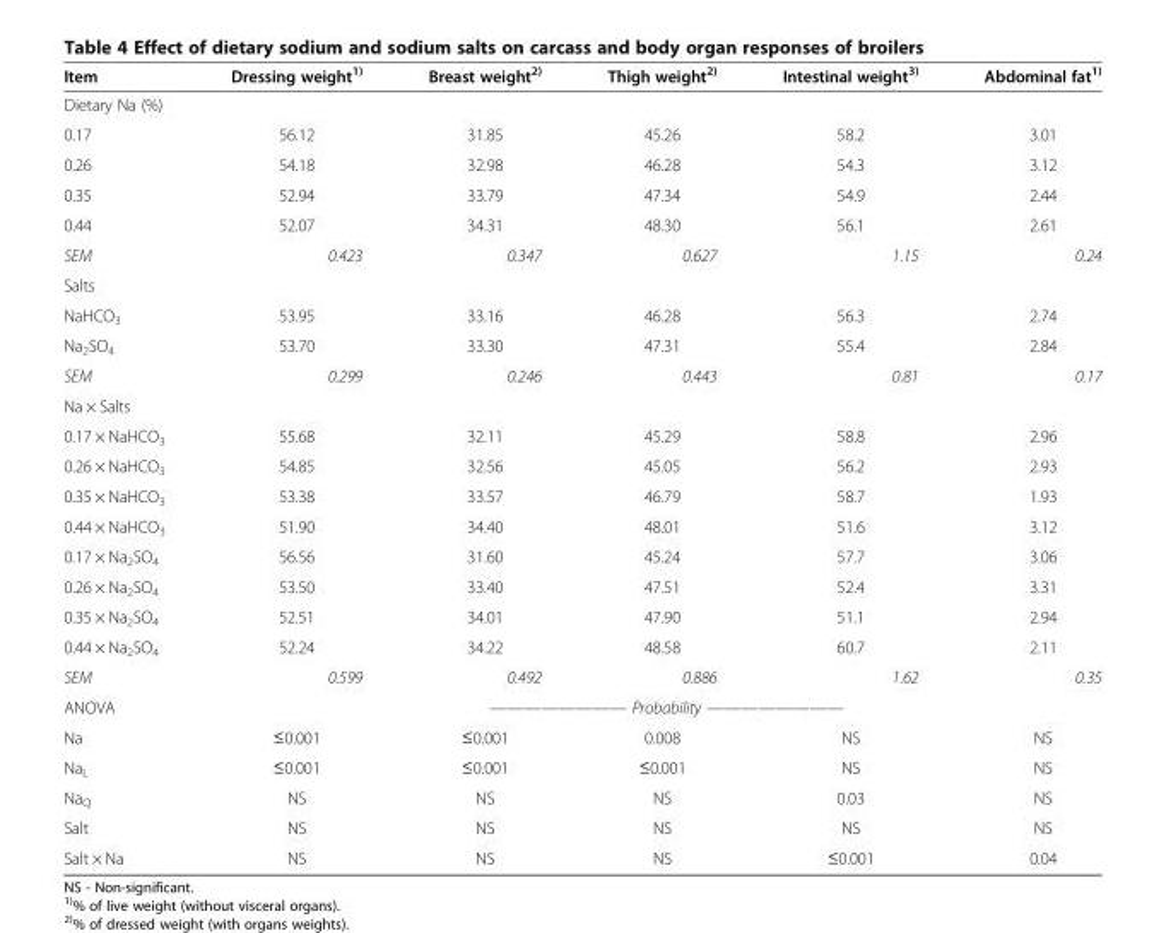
<table><thead><tr><td>Item</td><td>Dressing weight<sup>1)</sup></td><td>Breast weight<sup>2)</sup></td><td>Thigh weight<sup>2)</sup></td><td>Intestinal weight<sup>3)</sup></td><td>Abdominal fat<sup>1)</sup></td></tr></thead><tbody><tr><td colspan="6">Dietary Na (%)</td></tr><tr><td>0.17</td><td>56.12</td><td>31.85</td><td>45.26</td><td>58.2</td><td>3.01</td></tr><tr><td>0.26</td><td>54.18</td><td>32.98</td><td>46.28</td><td>54.3</td><td>3.12</td></tr><tr><td>0.35</td><td>52.94</td><td>33.79</td><td>47.34</td><td>54.9</td><td>2.44</td></tr><tr><td>0.44</td><td>52.07</td><td>34.31</td><td>48.30</td><td>56.1</td><td>2.61</td></tr><tr><td>SEM</td><td>0.423</td><td>0.347</td><td>0.627</td><td>1.15</td><td>0.24</td></tr><tr><td colspan="6">Salts</td></tr><tr><td>NaHCO<sub>3</sub></td><td>53.95</td><td>33.16</td><td>46.28</td><td>56.3</td><td>2.74</td></tr><tr><td>Na<sub>2</sub>SO<sub>4</sub></td><td>53.70</td><td>33.30</td><td>47.31</td><td>55.4</td><td>2.84</td></tr><tr><td>SEM</td><td>0.299</td><td>0.246</td><td>0.443</td><td>0.81</td><td>0.17</td></tr><tr><td colspan="6">Na × Salts</td></tr><tr><td>0.17 × NaHCO<sub>3</sub></td><td>55.68</td><td>32.11</td><td>45.29</td><td>58.8</td><td>2.96</td></tr><tr><td>0.26 × NaHCO<sub>3</sub></td><td>54.85</td><td>32.56</td><td>45.05</td><td>56.2</td><td>2.93</td></tr><tr><td>0.35 × NaHCO<sub>3</sub></td><td>53.38</td><td>33.57</td><td>46.79</td><td>58.7</td><td>1.93</td></tr><tr><td>0.44 × NaHCO<sub>3</sub></td><td>51.90</td><td>34.40</td><td>48.01</td><td>51.6</td><td>3.12</td></tr><tr><td>0.17 × Na<sub>2</sub>SO<sub>4</sub></td><td>56.56</td><td>31.60</td><td>45.24</td><td>57.7</td><td>3.06</td></tr><tr><td>0.26 × Na<sub>2</sub>SO<sub>4</sub></td><td>53.50</td><td>33.40</td><td>47.51</td><td>52.4</td><td>3.31</td></tr><tr><td>0.35 × Na<sub>2</sub>SO<sub>4</sub></td><td>52.51</td><td>34.01</td><td>47.90</td><td>51.1</td><td>2.94</td></tr><tr><td>0.44 × Na<sub>2</sub>SO<sub>4</sub></td><td>52.24</td><td>34.22</td><td>48.58</td><td>60.7</td><td>2.11</td></tr><tr><td>SEM</td><td>0.599</td><td>0.492</td><td>0.886</td><td>1.62</td><td>0.35</td></tr><tr><td>ANOVA</td><td colspan="5">———————— Probability ————————</td></tr><tr><td>Na</td><td>≤0.001</td><td>≤0.001</td><td>0.008</td><td>NS</td><td>NS</td></tr><tr><td>Na<sub>L</sub></td><td>≤0.001</td><td>≤0.001</td><td>≤0.001</td><td>NS</td><td>NS</td></tr><tr><td>Na<sub>Q</sub></td><td>NS</td><td>NS</td><td>NS</td><td>0.03</td><td>NS</td></tr><tr><td>Salt</td><td>NS</td><td>NS</td><td>NS</td><td>NS</td><td>NS</td></tr><tr><td>Salt × Na</td><td>NS</td><td>NS</td><td>NS</td><td>≤0.001</td><td>0.04</td></tr></tbody></table>